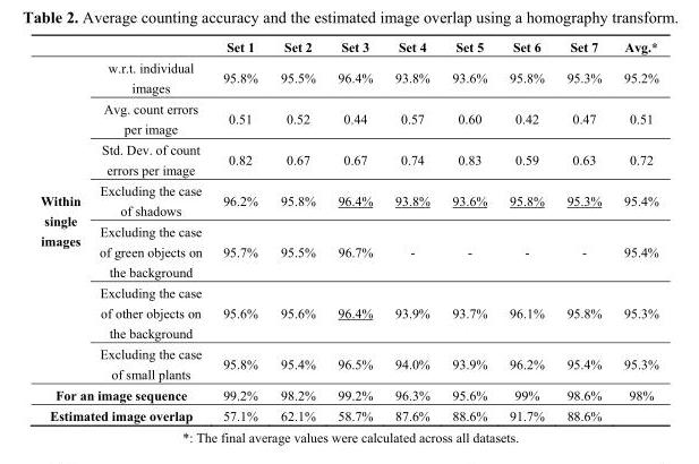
<table><thead><tr><td></td><td></td><td>Set 1</td><td>Set 2</td><td>Set 3</td><td>Set 4</td><td>Set 5</td><td>Set 6</td><td>Set 7</td><td>Avg.*</td></tr></thead><tbody><tr><td rowspan="7">Within single images</td><td>w.r.t. individual images</td><td>95.8%</td><td>95.5%</td><td>96.4%</td><td>93.8%</td><td>93.6%</td><td>95.8%</td><td>95.3%</td><td>95.2%</td></tr><tr><td>Avg. count errors per image</td><td>0.51</td><td>0.52</td><td>0.44</td><td>0.57</td><td>0.60</td><td>0.42</td><td>0.47</td><td>0.51</td></tr><tr><td>Std. Dev. of count errors per image</td><td>0.82</td><td>0.67</td><td>0.67</td><td>0.74</td><td>0.83</td><td>0.59</td><td>0.63</td><td>0.72</td></tr><tr><td>Excluding the case of shadows</td><td>96.2%</td><td>95.8%</td><td>96.4%</td><td>93.8%</td><td>93.6%</td><td>95.8%</td><td>95.3%</td><td>95.4%</td></tr><tr><td>Excluding the case of green objects on the background</td><td>95.7%</td><td>95.5%</td><td>96.7%</td><td>-</td><td>-</td><td>-</td><td>-</td><td>95.4%</td></tr><tr><td>Excluding the case of other objects on the background</td><td>95.6%</td><td>95.6%</td><td>96.4%</td><td>93.9%</td><td>93.7%</td><td>96.1%</td><td>95.8%</td><td>95.3%</td></tr><tr><td>Excluding the case of small plants</td><td>95.8%</td><td>95.4%</td><td>96.5%</td><td>94.0%</td><td>93.9%</td><td>96.2%</td><td>95.4%</td><td>95.3%</td></tr><tr><td colspan="2">For an image sequence</td><td>99.2%</td><td>98.2%</td><td>99.2%</td><td>96.3%</td><td>95.6%</td><td>99%</td><td>98.6%</td><td>98%</td></tr><tr><td colspan="2">Estimated image overlap</td><td>57.1%</td><td>62.1%</td><td>58.7%</td><td>87.6%</td><td>88.6%</td><td>91.7%</td><td>88.6%</td><td></td></tr></tbody></table>